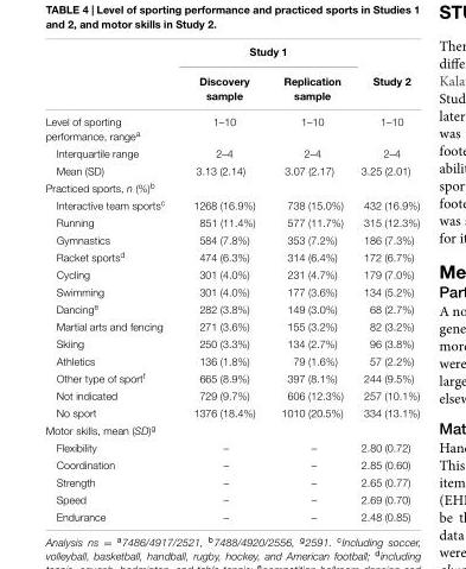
<table><thead><tr><td rowspan="2"></td><td colspan="2">Study 1</td><td rowspan="2">Study 2</td></tr><tr><td>Discovery sample</td><td>Replication sample</td></tr></thead><tbody><tr><td>Level of sporting performance, range<sup>a</sup></td><td>1–10</td><td>1–10</td><td>1–10</td></tr><tr><td>Interquartile range</td><td>2–4</td><td>2–4</td><td>2–4</td></tr><tr><td>Mean (SD)</td><td>3.13 (2.14)</td><td>3.07 (2.17)</td><td>3.25 (2.01)</td></tr><tr><td colspan="4">Practiced sports, n (%)<sup>b</sup></td></tr><tr><td>Interactive team sports<sup>c</sup></td><td>1268 (16.9%)</td><td>738 (15.0%)</td><td>432 (16.9%)</td></tr><tr><td>Running</td><td>851 (11.4%)</td><td>577 (11.7%)</td><td>315 (12.3%)</td></tr><tr><td>Gymnastics</td><td>584 (7.8%)</td><td>353 (7.2%)</td><td>186 (7.3%)</td></tr><tr><td>Racket sports<sup>d</sup></td><td>474 (6.3%)</td><td>314 (6.4%)</td><td>172 (6.7%)</td></tr><tr><td>Cycling</td><td>301 (4.0%)</td><td>231 (4.7%)</td><td>179 (7.0%)</td></tr><tr><td>Swimming</td><td>301 (4.0%)</td><td>177 (3.6%)</td><td>134 (5.2%)</td></tr><tr><td>Dancing<sup>e</sup></td><td>282 (3.8%)</td><td>149 (3.0%)</td><td>68 (2.7%)</td></tr><tr><td>Martial arts and fencing</td><td>271 (3.6%)</td><td>155 (3.2%)</td><td>82 (3.2%)</td></tr><tr><td>Skiing</td><td>250 (3.3%)</td><td>134 (2.7%)</td><td>96 (3.8%)</td></tr><tr><td>Athletics</td><td>136 (1.8%)</td><td>79 (1.6%)</td><td>57 (2.2%)</td></tr><tr><td>Other type of sport<sup>f</sup></td><td>665 (8.9%)</td><td>397 (8.1%)</td><td>244 (9.5%)</td></tr><tr><td>Not indicated</td><td>729 (9.7%)</td><td>606 (12.3%)</td><td>257 (10.1%)</td></tr><tr><td>No sport</td><td>1376 (18.4%)</td><td>1010 (20.5%)</td><td>334 (13.1%)</td></tr><tr><td colspan="4">Motor skills, mean (SD)<sup>g</sup></td></tr><tr><td>Flexibility</td><td>–</td><td>–</td><td>2.80 (0.72)</td></tr><tr><td>Coordination</td><td>–</td><td>–</td><td>2.85 (0.60)</td></tr><tr><td>Strength</td><td>–</td><td>–</td><td>2.65 (0.77)</td></tr><tr><td>Speed</td><td>–</td><td>–</td><td>2.69 (0.70)</td></tr><tr><td>Endurance</td><td>–</td><td>–</td><td>2.48 (0.85)</td></tr></tbody></table>